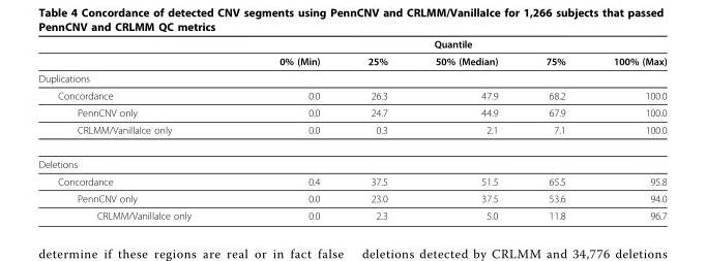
<table><thead><tr><td rowspan="2"></td><td colspan="5">Quantile</td></tr><tr><td>0% (Min)</td><td>25%</td><td>50% (Median)</td><td>75%</td><td>100% (Max)</td></tr></thead><tbody><tr><td colspan="6">Duplications</td></tr><tr><td>Concordance</td><td>0.0</td><td>26.3</td><td>47.9</td><td>68.2</td><td>100.0</td></tr><tr><td>PennCNV only</td><td>0.0</td><td>24.7</td><td>44.9</td><td>67.9</td><td>100.0</td></tr><tr><td>CRLMM/VanillaIce only</td><td>0.0</td><td>0.3</td><td>2.1</td><td>7.1</td><td>100.0</td></tr><tr><td colspan="6">Deletions</td></tr><tr><td>Concordance</td><td>0.4</td><td>37.5</td><td>51.5</td><td>65.5</td><td>95.8</td></tr><tr><td>PennCNV only</td><td>0.0</td><td>23.0</td><td>37.5</td><td>53.6</td><td>94.0</td></tr><tr><td>CRLMM/VanillaIce only</td><td>0.0</td><td>2.3</td><td>5.0</td><td>11.8</td><td>96.7</td></tr></tbody></table>